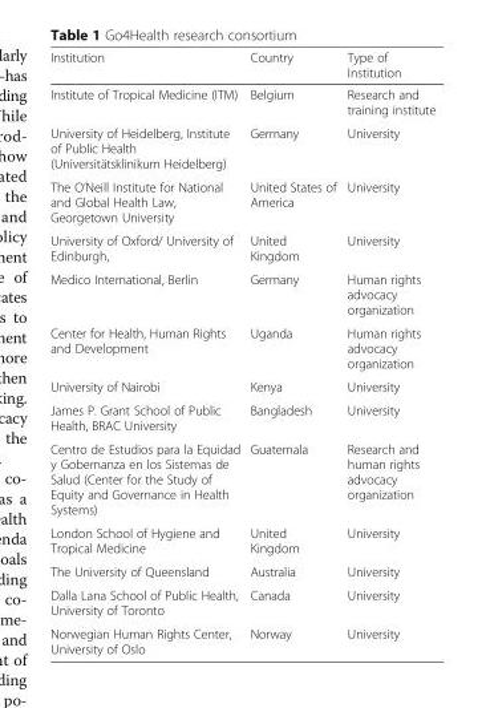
<table><thead><tr><td>Institution</td><td>Country</td><td>Type of Institution</td></tr></thead><tbody><tr><td>Institute of Tropical Medicine (ITM)</td><td>Belgium</td><td>Research and training institute</td></tr><tr><td>University of Heidelberg, Institute of Public Health (Universitätsklinikum Heidelberg)</td><td>Germany</td><td>University</td></tr><tr><td>The O’Neill Institute for National and Global Health Law, Georgetown University</td><td>United States of America</td><td>University</td></tr><tr><td>University of Oxford/ University of Edinburgh,</td><td>United Kingdom</td><td>University</td></tr><tr><td>Medico International, Berlin</td><td>Germany</td><td>Human rights advocacy organization</td></tr><tr><td>Center for Health, Human Rights and Development</td><td>Uganda</td><td>Human rights advocacy organization</td></tr><tr><td>University of Nairobi</td><td>Kenya</td><td>University</td></tr><tr><td>James P. Grant School of Public Health, BRAC University</td><td>Bangladesh</td><td>University</td></tr><tr><td>Centro de Estudios para la Equidad y Gobernanza en los Sistemas de Salud (Center for the Study of Equity and Governance in Health Systems)</td><td>Guatemala</td><td>Research and human rights advocacy organization</td></tr><tr><td>London School of Hygiene and Tropical Medicine</td><td>United Kingdom</td><td>University</td></tr><tr><td>The University of Queensland</td><td>Australia</td><td>University</td></tr><tr><td>Dalla Lana School of Public Health, University of Toronto</td><td>Canada</td><td>University</td></tr><tr><td>Norwegian Human Rights Center, University of Oslo</td><td>Norway</td><td>University</td></tr></tbody></table>